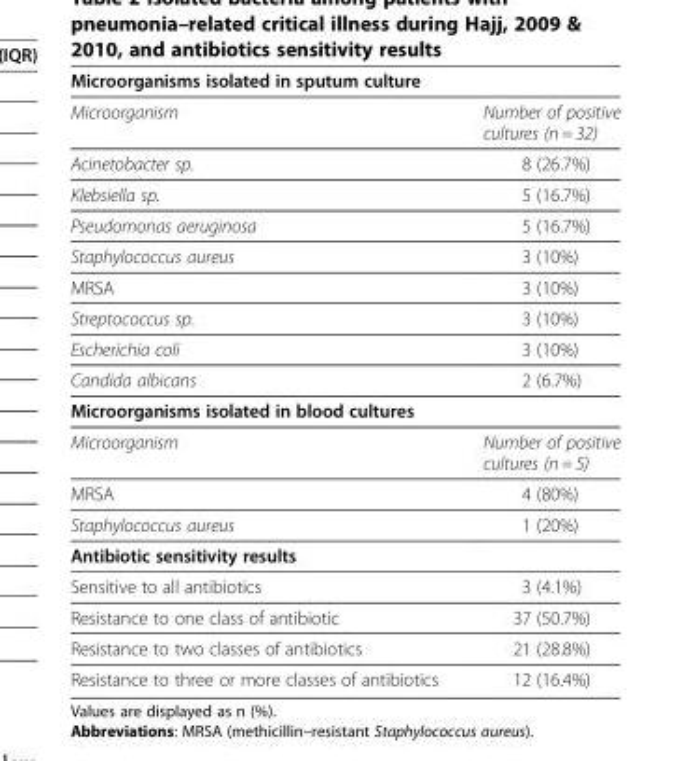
<table><thead><tr><td colspan="2">Microorganisms isolated in sputum culture</td></tr><tr><td>Microorganism</td><td>Number of positive cultures (n = 32)</td></tr></thead><tbody><tr><td>Acinetobacter sp.</td><td>8 (26.7%)</td></tr><tr><td>Klebsiella sp.</td><td>5 (16.7%)</td></tr><tr><td>Pseudomonas aeruginosa</td><td>5 (16.7%)</td></tr><tr><td>Staphylococcus aureus</td><td>3 (10%)</td></tr><tr><td>MRSA</td><td>3 (10%)</td></tr><tr><td>Streptococcus sp.</td><td>3 (10%)</td></tr><tr><td>Escherichia coli</td><td>3 (10%)</td></tr><tr><td>Candida albicans</td><td>2 (6.7%)</td></tr><tr><td colspan="2">Microorganisms isolated in blood cultures</td></tr><tr><td>Microorganism</td><td>Number of positive cultures (n = 5)</td></tr><tr><td>MRSA</td><td>4 (80%)</td></tr><tr><td>Staphylococcus aureus</td><td>1 (20%)</td></tr><tr><td colspan="2">Antibiotic sensitivity results</td></tr><tr><td>Sensitive to all antibiotics</td><td>3 (4.1%)</td></tr><tr><td>Resistance to one class of antibiotic</td><td>37 (50.7%)</td></tr><tr><td>Resistance to two classes of antibiotics</td><td>21 (28.8%)</td></tr><tr><td>Resistance to three or more classes of antibiotics</td><td>12 (16.4%)</td></tr></tbody></table>